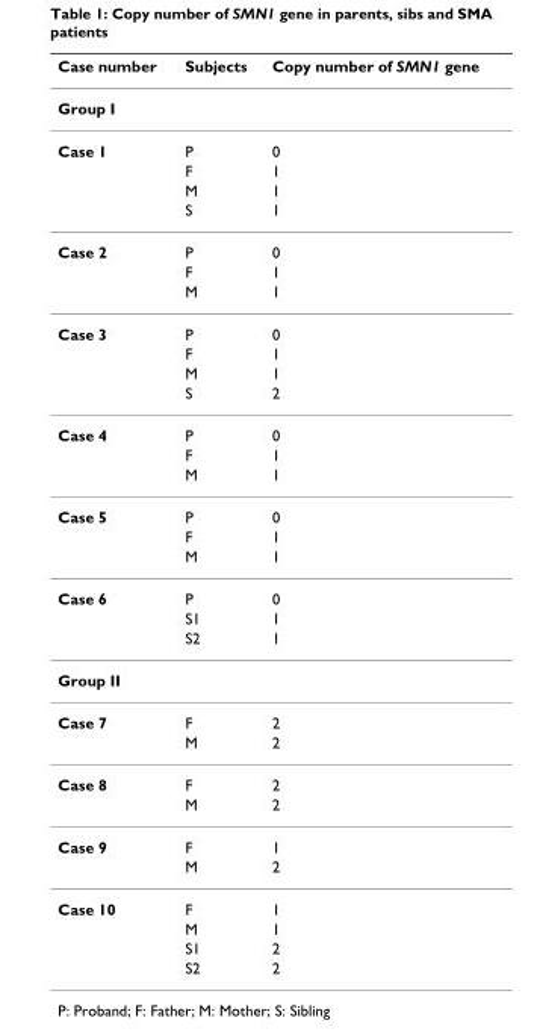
<table><thead><tr><td>Case number</td><td>Subjects</td><td>Copy number of SMN1 gene</td></tr></thead><tbody><tr><td colspan="3">Group I</td></tr><tr><td rowspan="4">Case 1</td><td>P</td><td>0</td></tr><tr><td>F</td><td>1</td></tr><tr><td>M</td><td>1</td></tr><tr><td>S</td><td>1</td></tr><tr><td rowspan="3">Case 2</td><td>P</td><td>0</td></tr><tr><td>F</td><td>1</td></tr><tr><td>M</td><td>1</td></tr><tr><td rowspan="4">Case 3</td><td>P</td><td>0</td></tr><tr><td>F</td><td>1</td></tr><tr><td>M</td><td>1</td></tr><tr><td>S</td><td>2</td></tr><tr><td rowspan="3">Case 4</td><td>P</td><td>0</td></tr><tr><td>F</td><td>1</td></tr><tr><td>M</td><td>1</td></tr><tr><td rowspan="3">Case 5</td><td>P</td><td>0</td></tr><tr><td>F</td><td>1</td></tr><tr><td>M</td><td>1</td></tr><tr><td rowspan="3">Case 6</td><td>P</td><td>0</td></tr><tr><td>S1</td><td>1</td></tr><tr><td>S2</td><td>1</td></tr><tr><td colspan="3">Group II</td></tr><tr><td rowspan="2">Case 7</td><td>F</td><td>2</td></tr><tr><td>M</td><td>2</td></tr><tr><td rowspan="2">Case 8</td><td>F</td><td>2</td></tr><tr><td>M</td><td>2</td></tr><tr><td rowspan="2">Case 9</td><td>F</td><td>1</td></tr><tr><td>M</td><td>2</td></tr><tr><td rowspan="4">Case 10</td><td>F</td><td>1</td></tr><tr><td>M</td><td>1</td></tr><tr><td>S1</td><td>2</td></tr><tr><td>S2</td><td>2</td></tr></tbody></table>